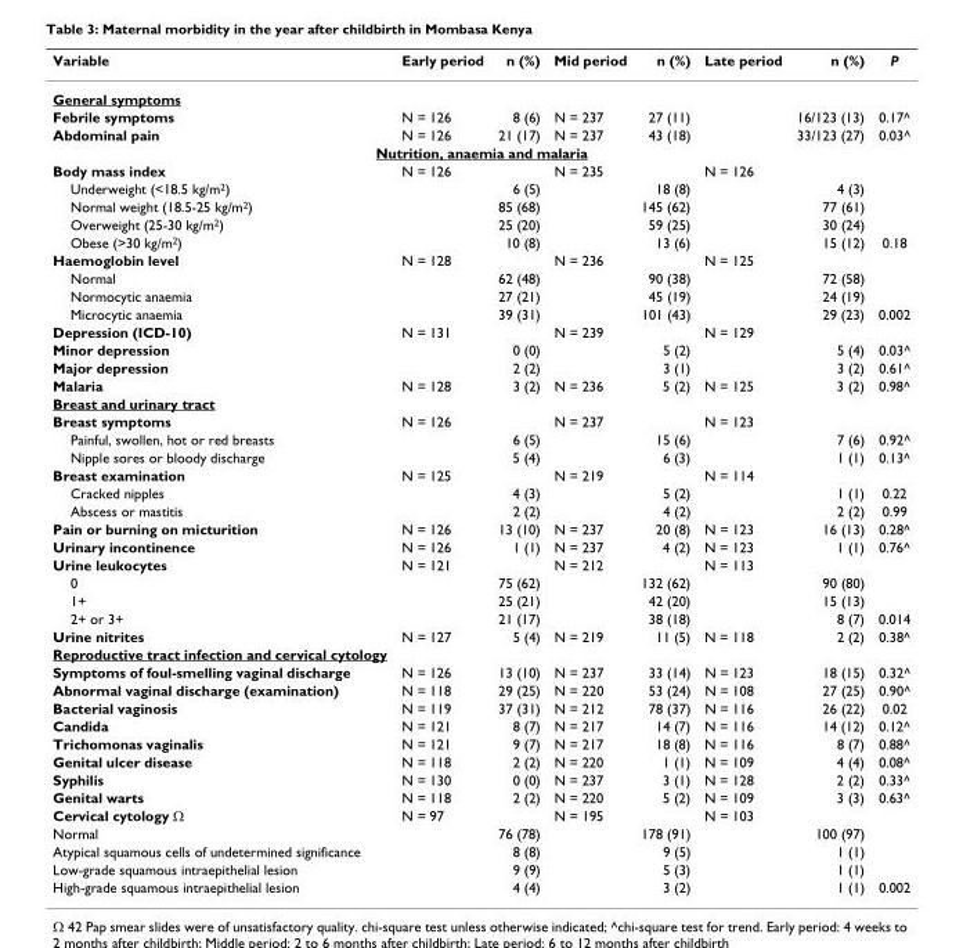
<table><thead><tr><td>Variable</td><td>Early period</td><td>n (%)</td><td>Mid period</td><td>n (%)</td><td>Late period</td><td>n (%)</td><td>P</td></tr></thead><tbody><tr><td colspan="8">General symptoms</td></tr><tr><td>Febrile symptoms</td><td>N = 126</td><td>8 (6)</td><td>N = 237</td><td>27 (11)</td><td></td><td>16/123 (13)</td><td>0.17^</td></tr><tr><td>Abdominal pain</td><td>N = 126</td><td>21 (17)</td><td>N = 237</td><td>43 (18)</td><td></td><td>33/123 (27)</td><td>0.03^</td></tr><tr><td colspan="8">Nutrition, anaemia and malaria</td></tr><tr><td>Body mass index</td><td>N = 126</td><td></td><td>N = 235</td><td></td><td>N = 126</td><td></td><td></td></tr><tr><td>Underweight (&lt;18.5 kg/m<sup>2</sup>)</td><td></td><td>6 (5)</td><td></td><td>18 (8)</td><td></td><td>4 (3)</td><td></td></tr><tr><td>Normal weight (18.5-25 kg/m<sup>2</sup>)</td><td></td><td>85 (68)</td><td></td><td>145 (62)</td><td></td><td>77 (61)</td><td></td></tr><tr><td>Overweight (25-30 kg/m<sup>2</sup>)</td><td></td><td>25 (20)</td><td></td><td>59 (25)</td><td></td><td>30 (24)</td><td></td></tr><tr><td>Obese (&gt;30 kg/m<sup>2</sup>)</td><td></td><td>10 (8)</td><td></td><td>13 (6)</td><td></td><td>15 (12)</td><td>0.18</td></tr><tr><td>Haemoglobin level</td><td>N = 128</td><td></td><td>N = 236</td><td></td><td>N = 125</td><td></td><td></td></tr><tr><td>Normal</td><td></td><td>62 (48)</td><td></td><td>90 (38)</td><td></td><td>72 (58)</td><td></td></tr><tr><td>Normocytic anaemia</td><td></td><td>27 (21)</td><td></td><td>45 (19)</td><td></td><td>24 (19)</td><td></td></tr><tr><td>Microcytic anaemia</td><td></td><td>39 (31)</td><td></td><td>101 (43)</td><td></td><td>29 (23)</td><td>0.002</td></tr><tr><td>Depression (ICD-10)</td><td>N = 131</td><td></td><td>N = 239</td><td></td><td>N = 129</td><td></td><td></td></tr><tr><td>Minor depression</td><td></td><td>0 (0)</td><td></td><td>5 (2)</td><td></td><td>5 (4)</td><td>0.03^</td></tr><tr><td>Major depression</td><td></td><td>2 (2)</td><td></td><td>3 (1)</td><td></td><td>3 (2)</td><td>0.61^</td></tr><tr><td>Malaria</td><td>N = 128</td><td>3 (2)</td><td>N = 236</td><td>5 (2)</td><td>N = 125</td><td>3 (2)</td><td>0.98^</td></tr><tr><td colspan="8">Breast and urinary tract</td></tr><tr><td>Breast symptoms</td><td>N = 126</td><td></td><td>N = 237</td><td></td><td>N = 123</td><td></td><td></td></tr><tr><td>Painful, swollen, hot or red breasts</td><td></td><td>6 (5)</td><td></td><td>15 (6)</td><td></td><td>7 (6)</td><td>0.92^</td></tr><tr><td>Nipple sores or bloody discharge</td><td></td><td>5 (4)</td><td></td><td>6 (3)</td><td></td><td>1 (1)</td><td>0.13^</td></tr><tr><td>Breast examination</td><td>N = 125</td><td></td><td>N = 219</td><td></td><td>N = 114</td><td></td><td></td></tr><tr><td>Cracked nipples</td><td></td><td>4 (3)</td><td></td><td>5 (2)</td><td></td><td>1 (1)</td><td>0.22</td></tr><tr><td>Abscess or mastitis</td><td></td><td>2 (2)</td><td></td><td>4 (2)</td><td></td><td>2 (2)</td><td>0.99</td></tr><tr><td>Pain or burning on micturition</td><td>N = 126</td><td>13 (10)</td><td>N = 237</td><td>20 (8)</td><td>N = 123</td><td>16 (13)</td><td>0.28^</td></tr><tr><td>Urinary incontinence</td><td>N = 126</td><td>1 (1)</td><td>N = 237</td><td>4 (2)</td><td>N = 123</td><td>1 (1)</td><td>0.76^</td></tr><tr><td>Urine leukocytes</td><td>N = 121</td><td></td><td>N = 212</td><td></td><td>N = 113</td><td></td><td></td></tr><tr><td>0</td><td></td><td>75 (62)</td><td></td><td>132 (62)</td><td></td><td>90 (80)</td><td></td></tr><tr><td>1+</td><td></td><td>25 (21)</td><td></td><td>42 (20)</td><td></td><td>15 (13)</td><td></td></tr><tr><td>2+ or 3+</td><td></td><td>21 (17)</td><td></td><td>38 (18)</td><td></td><td>8 (7)</td><td>0.014</td></tr><tr><td>Urine nitrites</td><td>N = 127</td><td>5 (4)</td><td>N = 219</td><td>11 (5)</td><td>N = 118</td><td>2 (2)</td><td>0.38^</td></tr><tr><td colspan="8">Reproductive tract infection and cervical cytology</td></tr><tr><td>Symptoms of foul-smelling vaginal discharge</td><td>N = 126</td><td>13 (10)</td><td>N = 237</td><td>33 (14)</td><td>N = 123</td><td>18 (15)</td><td>0.32^</td></tr><tr><td>Abnormal vaginal discharge (examination)</td><td>N = 118</td><td>29 (25)</td><td>N = 220</td><td>53 (24)</td><td>N = 108</td><td>27 (25)</td><td>0.90^</td></tr><tr><td>Bacterial vaginosis</td><td>N = 119</td><td>37 (31)</td><td>N = 212</td><td>78 (37)</td><td>N = 116</td><td>26 (22)</td><td>0.02</td></tr><tr><td>Candida</td><td>N = 121</td><td>8 (7)</td><td>N = 217</td><td>14 (7)</td><td>N = 116</td><td>14 (12)</td><td>0.12^</td></tr><tr><td>Trichomonas vaginalis</td><td>N = 121</td><td>9 (7)</td><td>N = 217</td><td>18 (8)</td><td>N = 116</td><td>8 (7)</td><td>0.88^</td></tr><tr><td>Genital ulcer disease</td><td>N = 118</td><td>2 (2)</td><td>N = 220</td><td>1 (1)</td><td>N = 109</td><td>4 (4)</td><td>0.08^</td></tr><tr><td>Syphilis</td><td>N = 130</td><td>0 (0)</td><td>N = 237</td><td>3 (1)</td><td>N = 128</td><td>2 (2)</td><td>0.33^</td></tr><tr><td>Genital warts</td><td>N = 118</td><td>2 (2)</td><td>N = 220</td><td>5 (2)</td><td>N = 109</td><td>3 (3)</td><td>0.63^</td></tr><tr><td>Cervical cytology Ω</td><td>N = 97</td><td></td><td>N = 195</td><td></td><td>N = 103</td><td></td><td></td></tr><tr><td>Normal</td><td></td><td>76 (78)</td><td></td><td>178 (91)</td><td></td><td>100 (97)</td><td></td></tr><tr><td>Atypical squamous cells of undetermined significance</td><td></td><td>8 (8)</td><td></td><td>9 (5)</td><td></td><td>1 (1)</td><td></td></tr><tr><td>Low-grade squamous intraepithelial lesion</td><td></td><td>9 (9)</td><td></td><td>5 (3)</td><td></td><td>1 (1)</td><td></td></tr><tr><td>High-grade squamous intraepithelial lesion</td><td></td><td>4 (4)</td><td></td><td>3 (2)</td><td></td><td>1 (1)</td><td>0.002</td></tr></tbody></table>